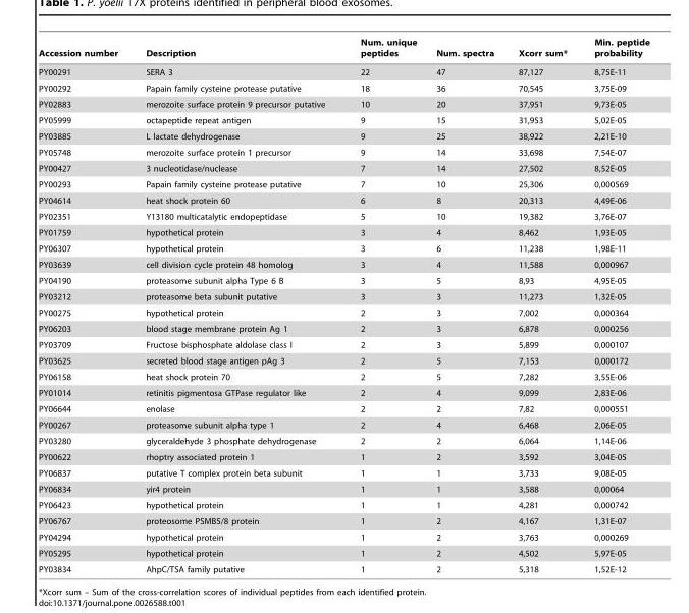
<table><thead><tr><td>Accession number</td><td>Description</td><td>Num. unique peptides</td><td>Num. spectra</td><td>Xcorr sum*</td><td>Min. peptide probability</td></tr></thead><tbody><tr><td>PY00291</td><td>SERA 3</td><td>22</td><td>47</td><td>87,127</td><td>8,75E-11</td></tr><tr><td>PY00292</td><td>Papain family cysteine protease putative</td><td>18</td><td>36</td><td>70,545</td><td>3,75E-09</td></tr><tr><td>PY02883</td><td>merozoite surface protein 9 precursor putative</td><td>10</td><td>20</td><td>37,951</td><td>9,73E-05</td></tr><tr><td>PY05999</td><td>octapeptide repeat antigen</td><td>9</td><td>15</td><td>31,953</td><td>5,02E-05</td></tr><tr><td>PY03885</td><td>L lactate dehydrogenase</td><td>9</td><td>25</td><td>38,922</td><td>2,21E-10</td></tr><tr><td>PY05748</td><td>merozoite surface protein 1 precursor</td><td>9</td><td>14</td><td>33,698</td><td>7,54E-07</td></tr><tr><td>PY00427</td><td>3 nucleotidase/nuclease</td><td>7</td><td>14</td><td>27,502</td><td>8,52E-05</td></tr><tr><td>PY00293</td><td>Papain family cysteine protease putative</td><td>7</td><td>10</td><td>25,306</td><td>0,000569</td></tr><tr><td>PY04614</td><td>heat shock protein 60</td><td>6</td><td>8</td><td>20,313</td><td>4,49E-06</td></tr><tr><td>PY02351</td><td>Y13180 multicatalytic endopeptidase</td><td>5</td><td>10</td><td>19,382</td><td>3,76E-07</td></tr><tr><td>PY01759</td><td>hypothetical protein</td><td>3</td><td>4</td><td>8,462</td><td>1,93E-05</td></tr><tr><td>PY06307</td><td>hypothetical protein</td><td>3</td><td>6</td><td>11,238</td><td>1,98E-11</td></tr><tr><td>PY03639</td><td>cell division cycle protein 48 homolog</td><td>3</td><td>4</td><td>11,588</td><td>0,000967</td></tr><tr><td>PY04190</td><td>proteasome subunit alpha Type 6 B</td><td>3</td><td>5</td><td>8,93</td><td>4,95E-05</td></tr><tr><td>PY03212</td><td>proteasome beta subunit putative</td><td>3</td><td>3</td><td>11,273</td><td>1,32E-05</td></tr><tr><td>PY00275</td><td>hypothetical protein</td><td>2</td><td>3</td><td>7,002</td><td>0,000364</td></tr><tr><td>PY06203</td><td>blood stage membrane protein Ag 1</td><td>2</td><td>3</td><td>6,878</td><td>0,000256</td></tr><tr><td>PY03709</td><td>Fructose bisphosphate aldolase class I</td><td>2</td><td>3</td><td>5,899</td><td>0,000107</td></tr><tr><td>PY03625</td><td>secreted blood stage antigen pAg 3</td><td>2</td><td>5</td><td>7,153</td><td>0,000172</td></tr><tr><td>PY06158</td><td>heat shock protein 70</td><td>2</td><td>5</td><td>7,282</td><td>3,55E-06</td></tr><tr><td>PY01014</td><td>retinitis pigmentosa GTPase regulator like</td><td>2</td><td>4</td><td>9,099</td><td>2,83E-06</td></tr><tr><td>PY06644</td><td>enolase</td><td>2</td><td>2</td><td>7,82</td><td>0,000551</td></tr><tr><td>PY00267</td><td>proteasome subunit alpha type 1</td><td>2</td><td>4</td><td>6,468</td><td>2,06E-05</td></tr><tr><td>PY03280</td><td>glyceraldehyde 3 phosphate dehydrogenase</td><td>2</td><td>2</td><td>6,064</td><td>1,14E-06</td></tr><tr><td>PY00622</td><td>rhoptry associated protein 1</td><td>1</td><td>2</td><td>3,592</td><td>3,04E-05</td></tr><tr><td>PY06837</td><td>putative T complex protein beta subunit</td><td>1</td><td>1</td><td>3,733</td><td>9,08E-05</td></tr><tr><td>PY06834</td><td>yir4 protein</td><td>1</td><td>1</td><td>3,588</td><td>0,00064</td></tr><tr><td>PY06423</td><td>hypothetical protein</td><td>1</td><td>1</td><td>4,281</td><td>0,000742</td></tr><tr><td>PY06767</td><td>proteosome PSMB5/8 protein</td><td>1</td><td>2</td><td>4,167</td><td>1,31E-07</td></tr><tr><td>PY04294</td><td>hypothetical protein</td><td>1</td><td>2</td><td>3,763</td><td>0,000269</td></tr><tr><td>PY05295</td><td>hypothetical protein</td><td>1</td><td>2</td><td>4,502</td><td>5,97E-05</td></tr><tr><td>PY03834</td><td>AhpC/TSA family putative</td><td>1</td><td>2</td><td>5,318</td><td>1,52E-12</td></tr></tbody></table>